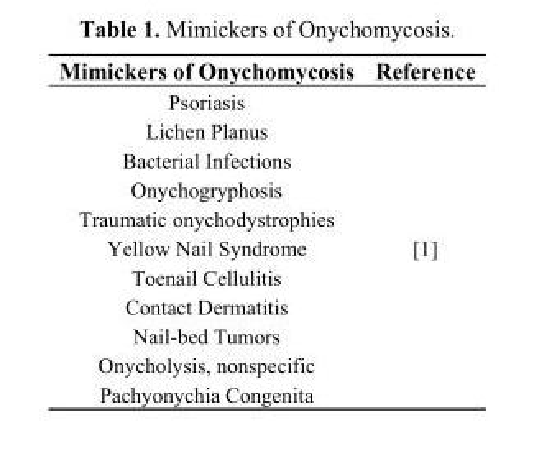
<table><thead><tr><td>Mimickers of Onychomycosis</td><td>Reference</td></tr></thead><tbody><tr><td>Psoriasis</td><td rowspan="11">[1]</td></tr><tr><td>Lichen Planus</td></tr><tr><td>Bacterial Infections</td></tr><tr><td>Onychogryphosis</td></tr><tr><td>Traumatic onychodystrophies</td></tr><tr><td>Yellow Nail Syndrome</td></tr><tr><td>Toenail Cellulitis</td></tr><tr><td>Contact Dermatitis</td></tr><tr><td>Nail-bed Tumors</td></tr><tr><td>Onycholysis, nonspecific</td></tr><tr><td>Pachyonychia Congenita</td></tr></tbody></table>